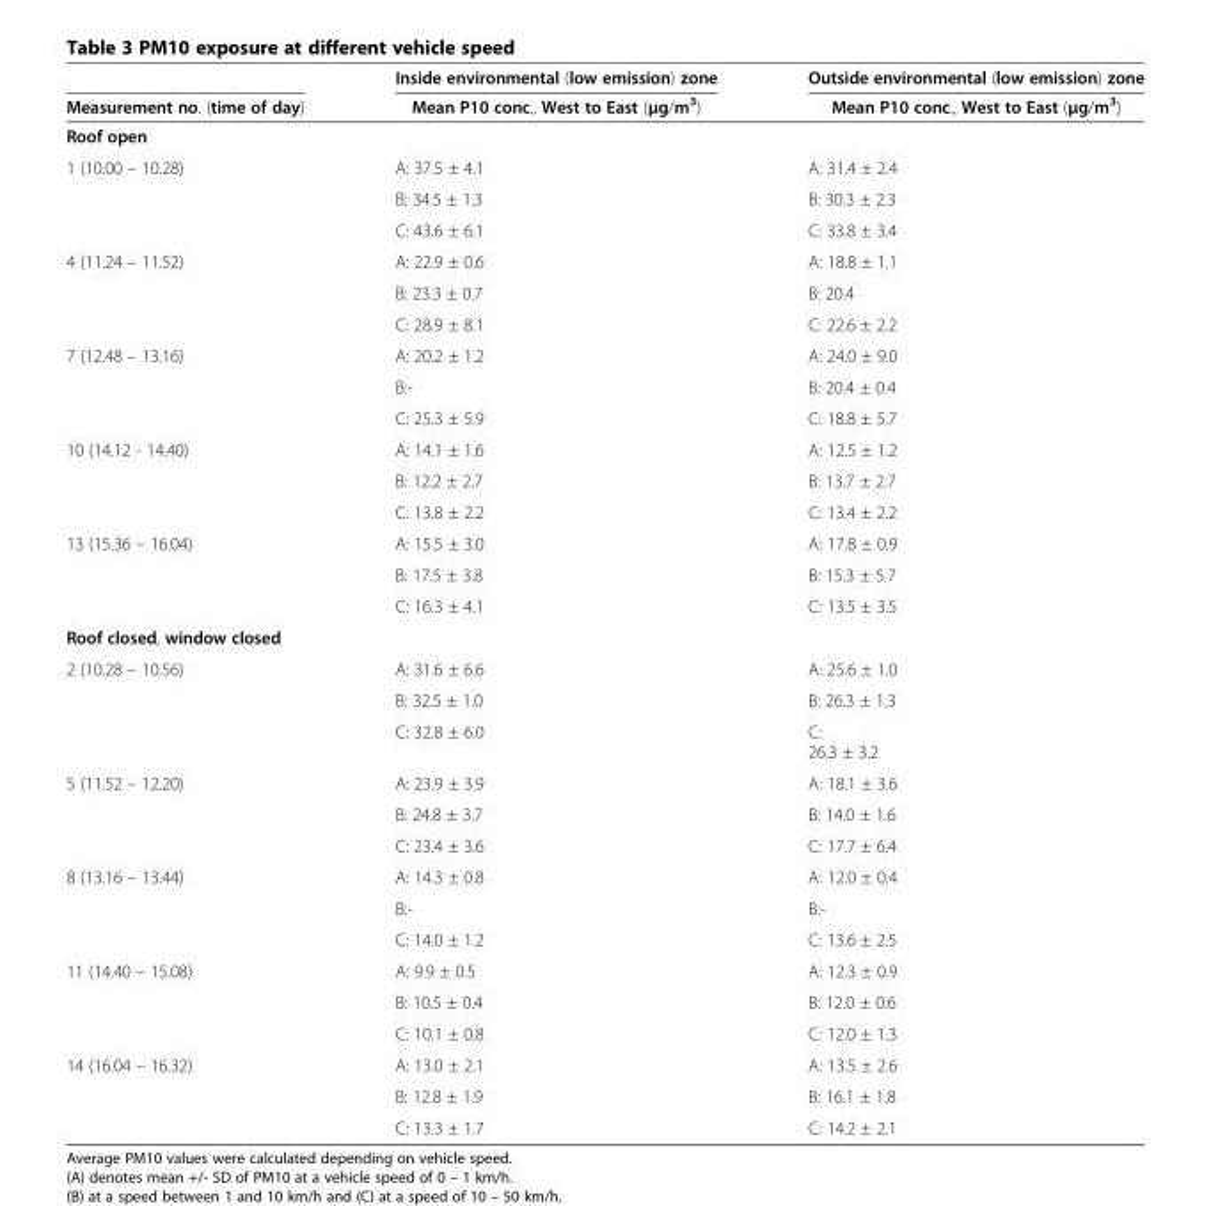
<table><thead><tr><td rowspan="2">Measurement no. (time of day)</td><td rowspan="2">Inside environmental (low emission) zone Mean P10 conc., West to East (μg/m<sup>3</sup>)</td><td rowspan="2">Outside environmental (low emission) zone Mean P10 conc., West to East (μg/m<sup>3</sup>)</td></tr><tr></tr></thead><tbody><tr><td colspan="3">Roof open</td></tr><tr><td rowspan="3">1 (10.00 – 10.28)</td><td>A: 37.5 ± 4.1</td><td>A: 31.4 ± 2.4</td></tr><tr><td>B: 34.5 ± 1.3</td><td>B: 30.3 ± 2.3</td></tr><tr><td>C: 43.6 ± 6.1</td><td>C: 33.8 ± 3.4</td></tr><tr><td rowspan="3">4 (11.24 – 11.52)</td><td>A: 22.9 ± 0.6</td><td>A: 18.8 ± 1.1</td></tr><tr><td>B: 23.3 ± 0.7</td><td>B: 20.4</td></tr><tr><td>C: 28.9 ± 8.1</td><td>C: 22.6 ± 2.2</td></tr><tr><td rowspan="3">7 (12.48 – 13.16)</td><td>A: 20.2 ± 1.2</td><td>A: 24.0 ± 9.0</td></tr><tr><td>B:-</td><td>B: 20.4 ± 0.4</td></tr><tr><td>C: 25.3 ± 5.9</td><td>C: 18.8 ± 5.7</td></tr><tr><td rowspan="3">10 (14.12 - 14.40)</td><td>A: 14.1 ± 1.6</td><td>A: 12.5 ± 1.2</td></tr><tr><td>B: 12.2 ± 2.7</td><td>B: 13.7 ± 2.7</td></tr><tr><td>C: 13.8 ± 2.2</td><td>C: 13.4 ± 2.2</td></tr><tr><td rowspan="3">13 (15.36 – 16.04)</td><td>A: 15.5 ± 3.0</td><td>A: 17.8 ± 0.9</td></tr><tr><td>B: 17.5 ± 3.8</td><td>B: 15.3 ± 5.7</td></tr><tr><td>C: 16.3 ± 4.1</td><td>C: 13.5 ± 3.5</td></tr><tr><td colspan="3">Roof closed, window closed</td></tr><tr><td rowspan="3">2 (10.28 – 10.56)</td><td>A: 31.6 ± 6.6</td><td>A: 25.6 ± 1.0</td></tr><tr><td>B: 32.5 ± 1.0</td><td>B: 26.3 ± 1.3</td></tr><tr><td>C: 32.8 ± 6.0</td><td>C: 26.3 ± 3.2</td></tr><tr><td rowspan="3">5 (11.52 – 12.20)</td><td>A: 23.9 ± 3.9</td><td>A: 18.1 ± 3.6</td></tr><tr><td>B: 24.8 ± 3.7</td><td>B: 14.0 ± 1.6</td></tr><tr><td>C: 23.4 ± 3.6</td><td>C: 17.7 ± 6.4</td></tr><tr><td rowspan="3">8 (13.16 – 13.44)</td><td>A: 14.3 ± 0.8</td><td>A: 12.0 ± 0.4</td></tr><tr><td>B:-</td><td>B:-</td></tr><tr><td>C: 14.0 ± 1.2</td><td>C: 13.6 ± 2.5</td></tr><tr><td rowspan="3">11 (14.40 – 15.08)</td><td>A: 9.9 ± 0.5</td><td>A: 12.3 ± 0.9</td></tr><tr><td>B: 10.5 ± 0.4</td><td>B: 12.0 ± 0.6</td></tr><tr><td>C: 10.1 ± 0.8</td><td>C: 12.0 ± 1.3</td></tr><tr><td rowspan="3">14 (16.04 – 16.32)</td><td>A: 13.0 ± 2.1</td><td>A: 13.5 ± 2.6</td></tr><tr><td>B: 12.8 ± 1.9</td><td>B: 16.1 ± 1.8</td></tr><tr><td>C: 13.3 ± 1.7</td><td>C: 14.2 ± 2.1</td></tr></tbody></table>